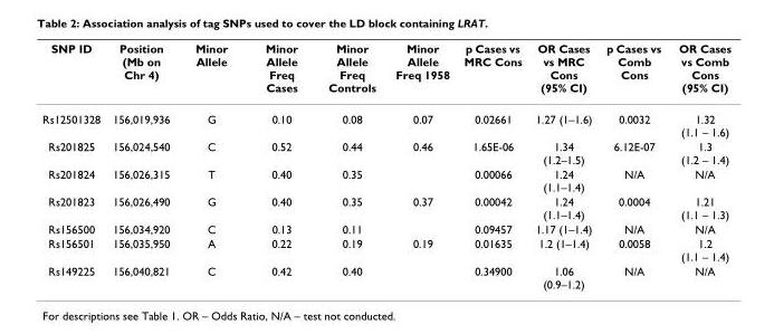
<table><thead><tr><td>SNP ID</td><td>Position (Mb on Chr 4)</td><td>Minor Allele</td><td>Minor Allele Freq Cases</td><td>Minor Allele Freq Controls</td><td>Minor Allele Freq 1958</td><td>p Cases vs MRC Cons</td><td>OR Cases vs MRC Cons (95% CI)</td><td>p Cases vs Comb Cons</td><td>OR Cases vs Comb Cons (95% CI)</td></tr></thead><tbody><tr><td>Rs12501328</td><td>156,019,936</td><td>G</td><td>0.10</td><td>0.08</td><td>0.07</td><td>0.02661</td><td>1.27 (1–1.6)</td><td>0.0032</td><td>1.32 (1.1 – 1.6)</td></tr><tr><td>Rs201825</td><td>156,024,540</td><td>C</td><td>0.52</td><td>0.44</td><td>0.46</td><td>1.65E-06</td><td>1.34 (1.2–1.5)</td><td>6.12E-07</td><td>1.3 (1.2 – 1.4)</td></tr><tr><td>Rs201824</td><td>156,026,315</td><td>T</td><td>0.40</td><td>0.35</td><td></td><td>0.00066</td><td>1.24 (1.1–1.4)</td><td>N/A</td><td>N/A</td></tr><tr><td>Rs201823</td><td>156,026,490</td><td>G</td><td>0.40</td><td>0.35</td><td>0.37</td><td>0.00042</td><td>1.24 (1.1–1.4)</td><td>0.0004</td><td>1.21 (1.1 – 1.3)</td></tr><tr><td>Rs156500</td><td>156,034,920</td><td>C</td><td>0.13</td><td>0.11</td><td></td><td>0.09457</td><td>1.17 (1–1.4)</td><td>N/A</td><td>N/A</td></tr><tr><td>Rs156501</td><td>156,035,950</td><td>A</td><td>0.22</td><td>0.19</td><td>0.19</td><td>0.01635</td><td>1.2 (1–1.4)</td><td>0.0058</td><td>1.2 (1.1 – 1.4)</td></tr><tr><td>Rs149225</td><td>156,040,821</td><td>C</td><td>0.42</td><td>0.40</td><td></td><td>0.34900</td><td>1.06 (0.9–1.2)</td><td>N/A</td><td>N/A</td></tr></tbody></table>